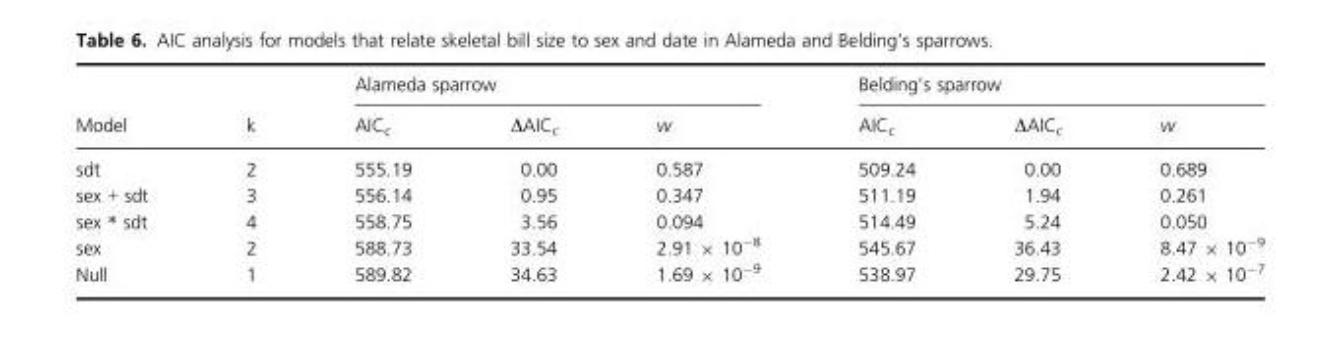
<table><thead><tr><td rowspan="2">Model</td><td rowspan="2">k</td><td colspan="3">Alameda sparrow</td><td colspan="3">Belding’s sparrow</td></tr><tr><td>AIC<sub>c</sub></td><td>ΔAIC<sub>c</sub></td><td>w</td><td>AIC<sub>c</sub></td><td>ΔAIC<sub>c</sub></td><td>w</td></tr></thead><tbody><tr><td>sdt</td><td>2</td><td>555.19</td><td>0.00</td><td>0.587</td><td>509.24</td><td>0.00</td><td>0.689</td></tr><tr><td>sex + sdt</td><td>3</td><td>556.14</td><td>0.95</td><td>0.347</td><td>511.19</td><td>1.94</td><td>0.261</td></tr><tr><td>sex * sdt</td><td>4</td><td>558.75</td><td>3.56</td><td>0.094</td><td>514.49</td><td>5.24</td><td>0.050</td></tr><tr><td>sex</td><td>2</td><td>588.73</td><td>33.54</td><td>2.91 × 10<sup>−8</sup></td><td>545.67</td><td>36.43</td><td>8.47 × 10<sup>−9</sup></td></tr><tr><td>Null</td><td>1</td><td>589.82</td><td>34.63</td><td>1.69 × 10<sup>−9</sup></td><td>538.97</td><td>29.75</td><td>2.42 × 10<sup>−7</sup></td></tr></tbody></table>